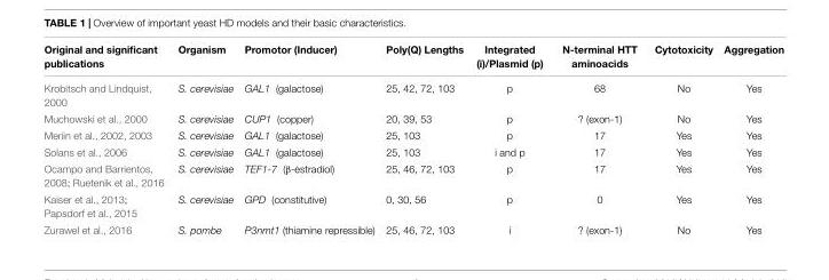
<table><thead><tr><td>Original and significant publications</td><td>Organism</td><td>Promotor (Inducer)</td><td>Poly(Q) Lengths</td><td>Integrated (i)/Plasmid (p)</td><td>N-terminal HTT aminoacids</td><td>Cytotoxicity</td><td>Aggregation</td></tr></thead><tbody><tr><td>Krobitsch and Lindquist, 2000</td><td>S. cerevisiae</td><td>GAL1 (galactose)</td><td>25, 42, 72, 103</td><td>p</td><td>68</td><td>No</td><td>Yes</td></tr><tr><td>Muchowski et al., 2000</td><td>S. cerevisiae</td><td>CUP1 (copper)</td><td>20, 39, 53</td><td>p</td><td>? (exon-1)</td><td>No</td><td>Yes</td></tr><tr><td>Meriin et al., 2002, 2003</td><td>S. cerevisiae</td><td>GAL1 (galactose)</td><td>25, 103</td><td>p</td><td>17</td><td>Yes</td><td>Yes</td></tr><tr><td>Solans et al., 2006</td><td>S. cerevisiae</td><td>GAL1 (galactose)</td><td>25, 103</td><td>i and p</td><td>17</td><td>Yes</td><td>Yes</td></tr><tr><td>Ocampo and Barrientos, 2008; Ruetenik et al., 2016</td><td>S. cerevisiae</td><td>TEF1-7 (β-estradiol)</td><td>25, 46, 72, 103</td><td>p</td><td>17</td><td>Yes</td><td>Yes</td></tr><tr><td>Kaiser et al., 2013; Papsdorf et al., 2015</td><td>S. cerevisiae</td><td>GPD (constitutive)</td><td>0, 30, 56</td><td>p</td><td>0</td><td>Yes</td><td>Yes</td></tr><tr><td>Zurawel et al., 2016</td><td>S. pombe</td><td>P3nmt1 (thiamine repressible)</td><td>25, 46, 72, 103</td><td>i</td><td>? (exon-1)</td><td>No</td><td>Yes</td></tr></tbody></table>